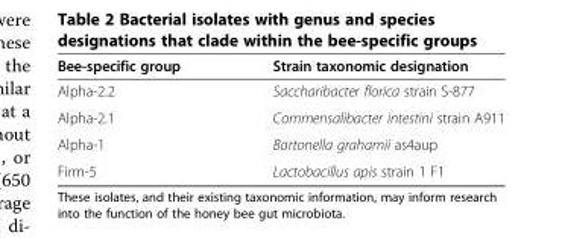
<table><thead><tr><td>Bee-specific group</td><td>Strain taxonomic designation</td></tr></thead><tbody><tr><td>Alpha-2.2</td><td>Saccharibacter florica strain S-877</td></tr><tr><td>Alpha-2.1</td><td>Commensalibacter intestini strain A911</td></tr><tr><td>Alpha-1</td><td>Bartonella grahamii as4aup</td></tr><tr><td>Firm-5</td><td>Lactobacillus apis strain 1 F1</td></tr></tbody></table>